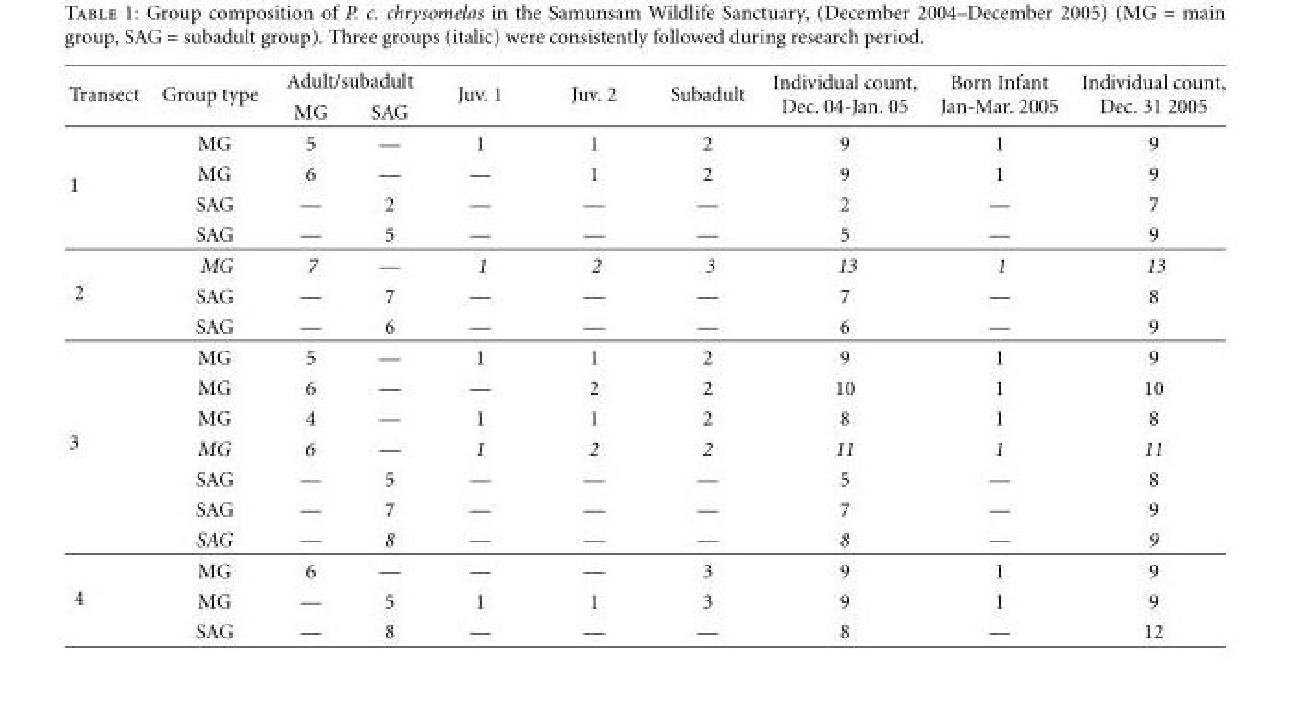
<table><thead><tr><td rowspan="2">Transect</td><td rowspan="2">Group type</td><td colspan="2">Adult/subadult</td><td rowspan="2">Juv. 1</td><td rowspan="2">Juv. 2</td><td rowspan="2">Subadult</td><td rowspan="2">Individual count, Dec. 04-Jan. 05</td><td rowspan="2">Born Infant Jan-Mar. 2005</td><td rowspan="2">Individual count, Dec. 31 2005</td></tr><tr><td>MG</td><td>SAG</td></tr></thead><tbody><tr><td rowspan="4">1</td><td>MG</td><td>5</td><td>—</td><td>1</td><td>1</td><td>2</td><td>9</td><td>1</td><td>9</td></tr><tr><td>MG</td><td>6</td><td>—</td><td>—</td><td>1</td><td>2</td><td>9</td><td>1</td><td>9</td></tr><tr><td>SAG</td><td>—</td><td>2</td><td>—</td><td>—</td><td>—</td><td>2</td><td>—</td><td>7</td></tr><tr><td>SAG</td><td>—</td><td>5</td><td>—</td><td>—</td><td>—</td><td>5</td><td>—</td><td>9</td></tr><tr><td rowspan="3">2</td><td>MG</td><td>7</td><td>—</td><td>1</td><td>2</td><td>3</td><td>13</td><td>1</td><td>13</td></tr><tr><td>SAG</td><td>—</td><td>7</td><td>—</td><td>—</td><td>—</td><td>7</td><td>—</td><td>8</td></tr><tr><td>SAG</td><td>—</td><td>6</td><td>—</td><td>—</td><td>—</td><td>6</td><td>—</td><td>9</td></tr><tr><td rowspan="7">3</td><td>MG</td><td>5</td><td>—</td><td>1</td><td>1</td><td>2</td><td>9</td><td>1</td><td>9</td></tr><tr><td>MG</td><td>6</td><td>—</td><td>—</td><td>2</td><td>2</td><td>10</td><td>1</td><td>10</td></tr><tr><td>MG</td><td>4</td><td>—</td><td>1</td><td>1</td><td>2</td><td>8</td><td>1</td><td>8</td></tr><tr><td>MG</td><td>6</td><td>—</td><td>1</td><td>2</td><td>2</td><td>11</td><td>1</td><td>11</td></tr><tr><td>SAG</td><td>—</td><td>5</td><td>—</td><td>—</td><td>—</td><td>5</td><td>—</td><td>8</td></tr><tr><td>SAG</td><td>—</td><td>7</td><td>—</td><td>—</td><td>—</td><td>7</td><td>—</td><td>9</td></tr><tr><td>SAG</td><td>—</td><td>8</td><td>—</td><td>—</td><td>—</td><td>8</td><td>—</td><td>9</td></tr><tr><td rowspan="3">4</td><td>MG</td><td>6</td><td>—</td><td>—</td><td>—</td><td>3</td><td>9</td><td>1</td><td>9</td></tr><tr><td>MG</td><td>—</td><td>5</td><td>1</td><td>1</td><td>3</td><td>9</td><td>1</td><td>9</td></tr><tr><td>SAG</td><td>—</td><td>8</td><td>—</td><td>—</td><td>—</td><td>8</td><td>—</td><td>12</td></tr></tbody></table>